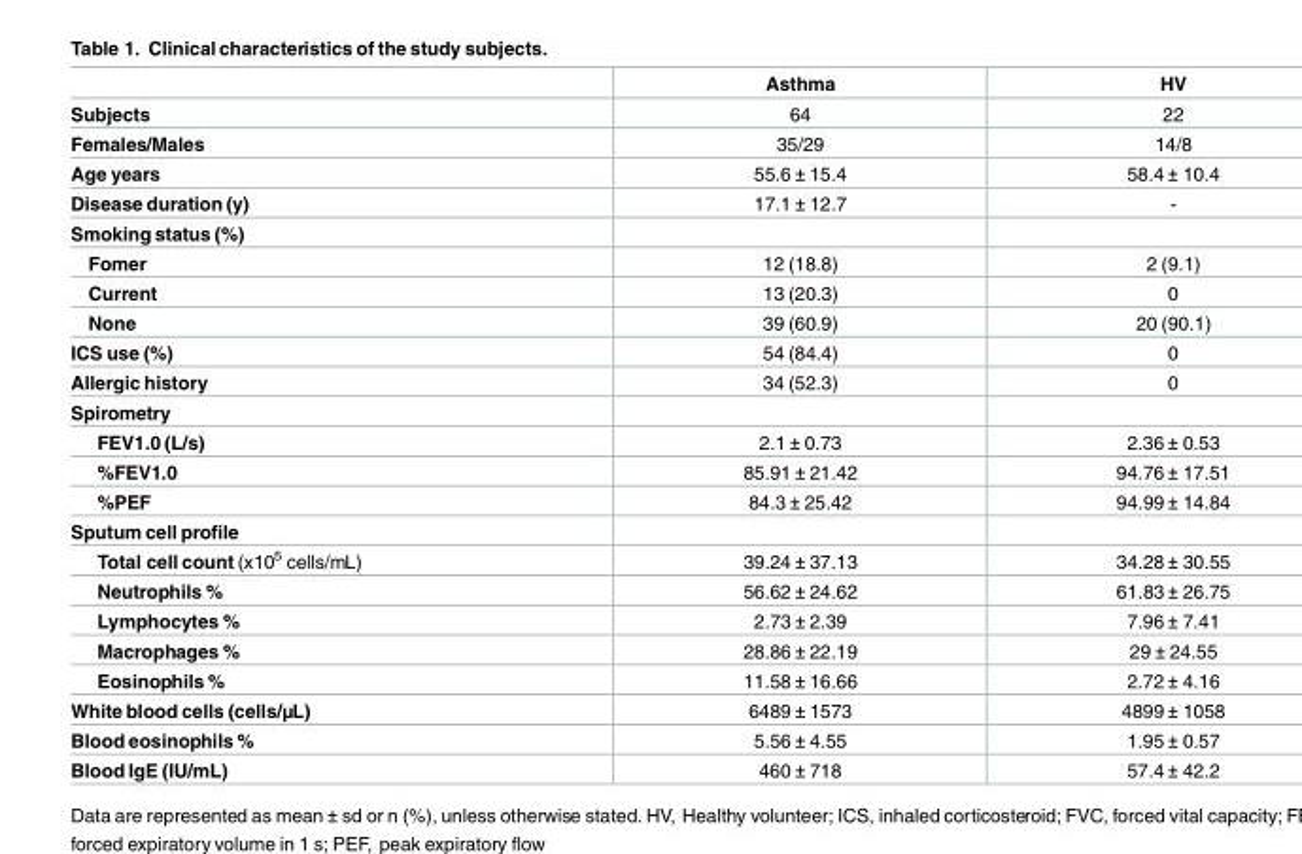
<table><thead><tr><td></td><td>Asthma</td><td>HV</td></tr></thead><tbody><tr><td>Subjects</td><td>64</td><td>22</td></tr><tr><td>Females/Males</td><td>35/29</td><td>14/8</td></tr><tr><td>Age years</td><td>55.6 ± 15.4</td><td>58.4 ± 10.4</td></tr><tr><td>Disease duration (y)</td><td>17.1 ± 12.7</td><td>-</td></tr><tr><td colspan="3">Smoking status (%)</td></tr><tr><td>Fomer</td><td>12 (18.8)</td><td>2 (9.1)</td></tr><tr><td>Current</td><td>13 (20.3)</td><td>0</td></tr><tr><td>None</td><td>39 (60.9)</td><td>20 (90.1)</td></tr><tr><td>ICS use (%)</td><td>54 (84.4)</td><td>0</td></tr><tr><td>Allergic history</td><td>34 (52.3)</td><td>0</td></tr><tr><td colspan="3">Spirometry</td></tr><tr><td>FEV1.0 (L/s)</td><td>2.1 ± 0.73</td><td>2.36 ± 0.53</td></tr><tr><td>%FEV1.0</td><td>85.91 ± 21.42</td><td>94.76 ± 17.51</td></tr><tr><td>%PEF</td><td>84.3 ± 25.42</td><td>94.99 ± 14.84</td></tr><tr><td colspan="3">Sputum cell profile</td></tr><tr><td>Total cell count (x10<sup>5</sup> cells/mL)</td><td>39.24 ± 37.13</td><td>34.28 ± 30.55</td></tr><tr><td>Neutrophils %</td><td>56.62 ± 24.62</td><td>61.83 ± 26.75</td></tr><tr><td>Lymphocytes %</td><td>2.73 ± 2.39</td><td>7.96 ± 7.41</td></tr><tr><td>Macrophages %</td><td>28.86 ± 22.19</td><td>29 ± 24.55</td></tr><tr><td>Eosinophils %</td><td>11.58 ± 16.66</td><td>2.72 ± 4.16</td></tr><tr><td>White blood cells (cells/μL)</td><td>6489 ± 1573</td><td>4899 ± 1058</td></tr><tr><td>Blood eosinophils %</td><td>5.56 ± 4.55</td><td>1.95 ± 0.57</td></tr><tr><td>Blood IgE (IU/mL)</td><td>460 ± 718</td><td>57.4 ± 42.2</td></tr></tbody></table>